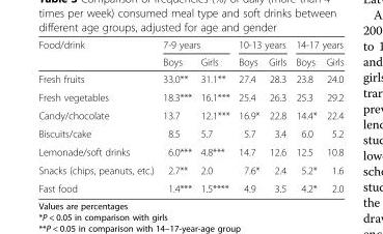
<table><thead><tr><td rowspan="2">Food/drink</td><td colspan="2">7-9 years</td><td colspan="2">10-13 years</td><td colspan="2">14-17 years</td></tr><tr><td>Boys</td><td>Girls</td><td>Boys</td><td>Girls</td><td>Boys</td><td>Girls</td></tr></thead><tbody><tr><td>Fresh fruits</td><td>33.0**</td><td>31.1**</td><td>27.4</td><td>28.3</td><td>23.8</td><td>24.0</td></tr><tr><td>Fresh vegetables</td><td>18.3***</td><td>16.1***</td><td>25.4</td><td>26.3</td><td>25.3</td><td>29.2</td></tr><tr><td>Candy/chocolate</td><td>13.7</td><td>12.1***</td><td>16.9*</td><td>22.8</td><td>14.4*</td><td>22.4</td></tr><tr><td>Biscuits/cake</td><td>8.5</td><td>5.7</td><td>5.7</td><td>3.4</td><td>6.0</td><td>5.2</td></tr><tr><td>Lemonade/soft drinks</td><td>6.0***</td><td>4.8***</td><td>14.7</td><td>12.6</td><td>12.5</td><td>10.8</td></tr><tr><td>Snacks (chips, peanuts, etc.)</td><td>2.7**</td><td>2.0</td><td>7.6*</td><td>2.4</td><td>5.2*</td><td>1.6</td></tr><tr><td>Fast food</td><td>1.4***</td><td>1.5****</td><td>4.9</td><td>3.5</td><td>4.2*</td><td>2.0</td></tr></tbody></table>